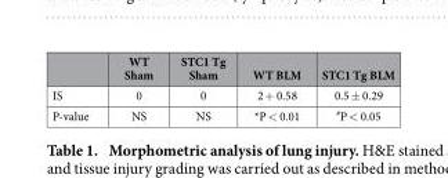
<table><thead><tr><td></td><td>WT Sham</td><td>STC1 Tg Sham</td><td>WT BLM</td><td>STC1 Tg BLM</td></tr></thead><tbody><tr><td>IS</td><td>0</td><td>0</td><td>2 + 0.58</td><td>0.5 ± 0.29</td></tr><tr><td>P-value</td><td>NS</td><td>NS</td><td>*P &lt; 0.01</td><td><sup>#</sup>P &lt; 0.05</td></tr></tbody></table>